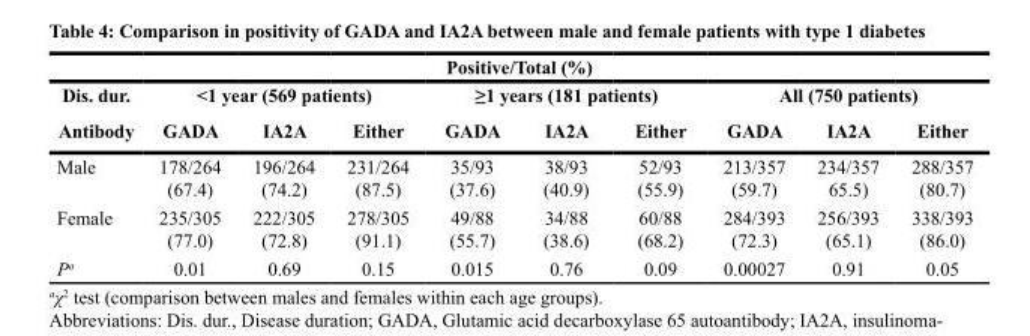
<table><thead><tr><td colspan="10">Positive/Total (%)</td></tr><tr><td rowspan="2">Dis. dur. Antibody</td><td colspan="3">&lt;1 year (569 patients)</td><td colspan="3">≥1 years (181 patients)</td><td colspan="3">All (750 patients)</td></tr><tr><td>GADA</td><td>IA2A</td><td>Either</td><td>GADA</td><td>IA2A</td><td>Either</td><td>GADA</td><td>IA2A</td><td>Either</td></tr></thead><tbody><tr><td>Male</td><td>178/264 (67.4)</td><td>196/264 (74.2)</td><td>231/264 (87.5)</td><td>35/93 (37.6)</td><td>38/93 (40.9)</td><td>52/93 (55.9)</td><td>213/357 (59.7)</td><td>234/357 65.5)</td><td>288/357 (80.7)</td></tr><tr><td>Female</td><td>235/305 (77.0)</td><td>222/305 (72.8)</td><td>278/305 (91.1)</td><td>49/88 (55.7)</td><td>34/88 (38.6)</td><td>60/88 (68.2)</td><td>284/393 (72.3)</td><td>256/393 (65.1)</td><td>338/393 (86.0)</td></tr><tr><td>P<sup>a</sup></td><td>0.01</td><td>0.69</td><td>0.15</td><td>0.015</td><td>0.76</td><td>0.09</td><td>0.00027</td><td>0.91</td><td>0.05</td></tr></tbody></table>